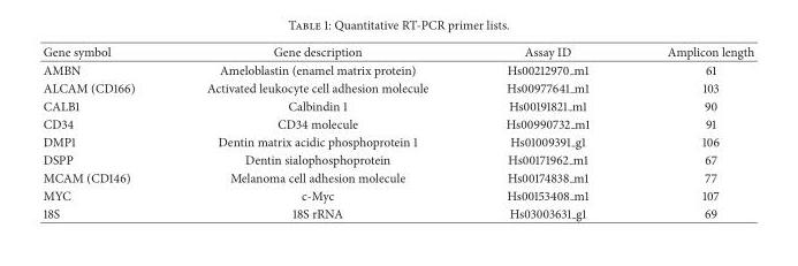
<table><thead><tr><td>Gene symbol</td><td>Gene description</td><td>Assay ID</td><td>Amplicon length</td></tr></thead><tbody><tr><td>AMBN</td><td>Ameloblastin (enamel matrix protein)</td><td>Hs00212970 m1</td><td>61</td></tr><tr><td>ALCAM (CD166)</td><td>Activated leukocyte cell adhesion molecule</td><td>Hs00977641 m1</td><td>103</td></tr><tr><td>CALB1</td><td>Calbindin 1</td><td>Hs00191821 m1</td><td>90</td></tr><tr><td>CD34</td><td>CD34 molecule</td><td>Hs00990732 m1</td><td>91</td></tr><tr><td>DMP1</td><td>Dentin matrix acidic phosphoprotein 1</td><td>Hs01009391 g1</td><td>106</td></tr><tr><td>DSPP</td><td>Dentin sialophosphoprotein</td><td>Hs00171962 m1</td><td>67</td></tr><tr><td>MCAM (CD146)</td><td>Melanoma cell adhesion molecule</td><td>Hs00174838 m1</td><td>77</td></tr><tr><td>MYC</td><td>c-Myc</td><td>Hs00153408 m1</td><td>107</td></tr><tr><td>18S</td><td>18S rRNA</td><td>Hs03003631 g1</td><td>69</td></tr></tbody></table>